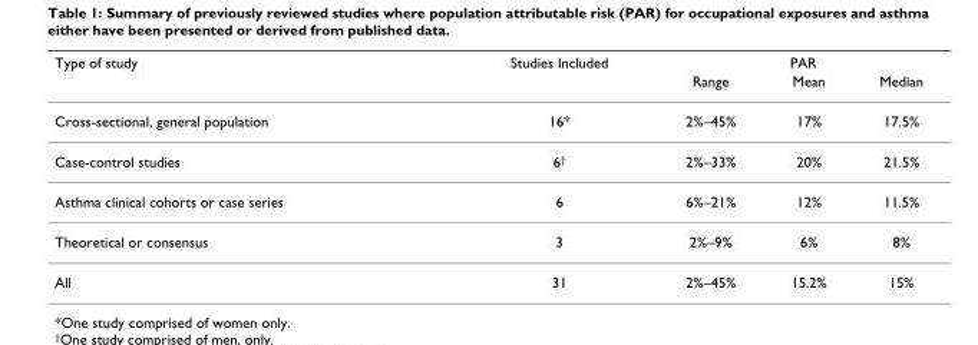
<table><thead><tr><td rowspan="2">Type of study</td><td rowspan="2">Studies Included</td><td colspan="3">PAR</td></tr><tr><td>Range</td><td>Mean</td><td>Median</td></tr></thead><tbody><tr><td>Cross-sectional, general population</td><td>16*</td><td>2%–45%</td><td>17%</td><td>17.5%</td></tr><tr><td>Case-control studies</td><td>6<sup>†</sup></td><td>2%–33%</td><td>20%</td><td>21.5%</td></tr><tr><td>Asthma clinical cohorts or case series</td><td>6</td><td>6%–21%</td><td>12%</td><td>11.5%</td></tr><tr><td>Theoretical or consensus</td><td>3</td><td>2%–9%</td><td>6%</td><td>8%</td></tr><tr><td>All</td><td>31</td><td>2%–45%</td><td>15.2%</td><td>15%</td></tr></tbody></table>